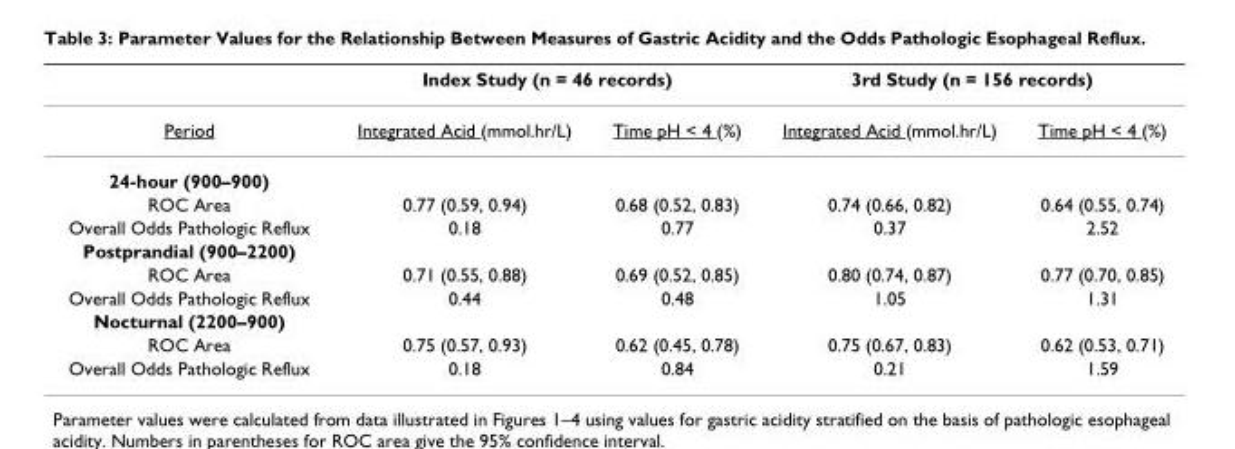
<table><thead><tr><td rowspan="2">Period</td><td colspan="2">Index Study (n = 46 records)</td><td colspan="2">3rd Study (n = 156 records)</td></tr><tr><td>Integrated Acid (mmol.hr/L)</td><td>Time pH &lt; 4 (%)</td><td>Integrated Acid (mmol.hr/L)</td><td>Time pH &lt; 4 (%)</td></tr></thead><tbody><tr><td colspan="5">24-hour (900–900)</td></tr><tr><td>ROC Area</td><td>0.77 (0.59, 0.94)</td><td>0.68 (0.52, 0.83)</td><td>0.74 (0.66, 0.82)</td><td>0.64 (0.55, 0.74)</td></tr><tr><td>Overall Odds Pathologic Reflux</td><td>0.18</td><td>0.77</td><td>0.37</td><td>2.52</td></tr><tr><td colspan="5">Postprandial (900–2200)</td></tr><tr><td>ROC Area</td><td>0.71 (0.55, 0.88)</td><td>0.69 (0.52, 0.85)</td><td>0.80 (0.74, 0.87)</td><td>0.77 (0.70, 0.85)</td></tr><tr><td>Overall Odds Pathologic Reflux</td><td>0.44</td><td>0.48</td><td>1.05</td><td>1.31</td></tr><tr><td colspan="5">Nocturnal (2200–900)</td></tr><tr><td>ROC Area</td><td>0.75 (0.57, 0.93)</td><td>0.62 (0.45, 0.78)</td><td>0.75 (0.67, 0.83)</td><td>0.62 (0.53, 0.71)</td></tr><tr><td>Overall Odds Pathologic Reflux</td><td>0.18</td><td>0.84</td><td>0.21</td><td>1.59</td></tr></tbody></table>